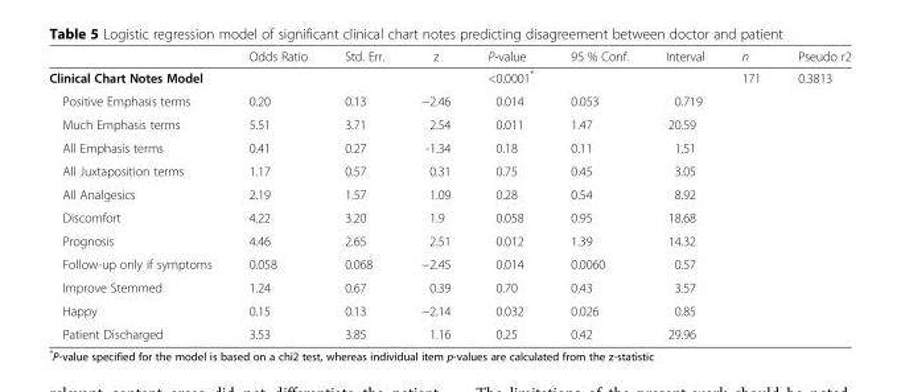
<table><thead><tr><td></td><td>Odds Ratio</td><td>Std. Err.</td><td>z</td><td>P-value</td><td>95 % Conf.</td><td>Interval</td><td>n</td><td>Pseudo r2</td></tr></thead><tbody><tr><td>Clinical Chart Notes Model</td><td></td><td></td><td></td><td>&lt;0.0001*</td><td></td><td></td><td>171</td><td>0.3813</td></tr><tr><td>Positive Emphasis terms</td><td>0.20</td><td>0.13</td><td>−2.46</td><td>0.014</td><td>0.053</td><td>0.719</td><td colspan="2"></td></tr><tr><td>Much Emphasis terms</td><td>5.51</td><td>3.71</td><td>2.54</td><td>0.011</td><td>1.47</td><td>20.59</td><td colspan="2"></td></tr><tr><td>All Emphasis terms</td><td>0.41</td><td>0.27</td><td>-1.34</td><td>0.18</td><td>0.11</td><td>1.51</td><td colspan="2"></td></tr><tr><td>All Juxtaposition terms</td><td>1.17</td><td>0.57</td><td>0.31</td><td>0.75</td><td>0.45</td><td>3.05</td><td colspan="2"></td></tr><tr><td>All Analgesics</td><td>2.19</td><td>1.57</td><td>1.09</td><td>0.28</td><td>0.54</td><td>8.92</td><td colspan="2"></td></tr><tr><td>Discomfort</td><td>4.22</td><td>3.20</td><td>1.9</td><td>0.058</td><td>0.95</td><td>18.68</td><td colspan="2"></td></tr><tr><td>Prognosis</td><td>4.46</td><td>2.65</td><td>2.51</td><td>0.012</td><td>1.39</td><td>14.32</td><td colspan="2"></td></tr><tr><td>Follow-up only if symptoms</td><td>0.058</td><td>0.068</td><td>−2.45</td><td>0.014</td><td>0.0060</td><td>0.57</td><td colspan="2"></td></tr><tr><td>Improve Stemmed</td><td>1.24</td><td>0.67</td><td>0.39</td><td>0.70</td><td>0.43</td><td>3.57</td><td colspan="2"></td></tr><tr><td>Happy</td><td>0.15</td><td>0.13</td><td>−2.14</td><td>0.032</td><td>0.026</td><td>0.85</td><td colspan="2"></td></tr><tr><td>Patient Discharged</td><td>3.53</td><td>3.85</td><td>1.16</td><td>0.25</td><td>0.42</td><td>29.96</td><td colspan="2"></td></tr></tbody></table>